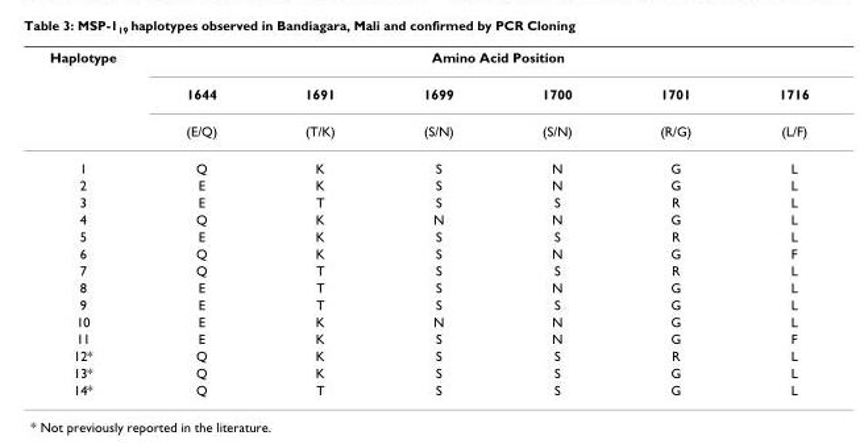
<table><thead><tr><td rowspan="3">Haplotype</td><td colspan="6">Amino Acid Position</td></tr><tr><td rowspan="2">1644 (E/Q)</td><td rowspan="2">1691 (T/K)</td><td rowspan="2">1699 (S/N)</td><td rowspan="2">1700 (S/N)</td><td rowspan="2">1701 (R/G)</td><td rowspan="2">1716 (L/F)</td></tr><tr></tr></thead><tbody><tr><td>1</td><td>Q</td><td>K</td><td>S</td><td>N</td><td>G</td><td>L</td></tr><tr><td>2</td><td>E</td><td>K</td><td>S</td><td>N</td><td>G</td><td>L</td></tr><tr><td>3</td><td>E</td><td>T</td><td>S</td><td>S</td><td>R</td><td>L</td></tr><tr><td>4</td><td>Q</td><td>K</td><td>N</td><td>N</td><td>G</td><td>L</td></tr><tr><td>5</td><td>E</td><td>K</td><td>S</td><td>S</td><td>R</td><td>L</td></tr><tr><td>6</td><td>Q</td><td>K</td><td>S</td><td>N</td><td>G</td><td>F</td></tr><tr><td>7</td><td>Q</td><td>T</td><td>S</td><td>S</td><td>R</td><td>L</td></tr><tr><td>8</td><td>E</td><td>T</td><td>S</td><td>N</td><td>G</td><td>L</td></tr><tr><td>9</td><td>E</td><td>T</td><td>S</td><td>S</td><td>G</td><td>L</td></tr><tr><td>10</td><td>E</td><td>K</td><td>N</td><td>N</td><td>G</td><td>L</td></tr><tr><td>11</td><td>E</td><td>K</td><td>S</td><td>N</td><td>G</td><td>F</td></tr><tr><td>12*</td><td>Q</td><td>K</td><td>S</td><td>S</td><td>R</td><td>L</td></tr><tr><td>13*</td><td>Q</td><td>K</td><td>S</td><td>S</td><td>G</td><td>L</td></tr><tr><td>14*</td><td>Q</td><td>T</td><td>S</td><td>S</td><td>G</td><td>L</td></tr></tbody></table>